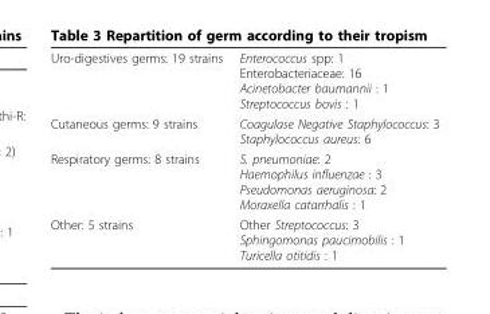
<table><tbody><tr><td>Uro-digestives germs: 19 strains</td><td>Enterococcus spp: 1 Enterobacteriaceae: 16 Acinetobacter baumannii : 1 Streptococcus bovis : 1</td></tr><tr><td>Cutaneous germs: 9 strains</td><td>Coagulase Negative Staphylococcus: 3 Staphylococcus aureus: 6</td></tr><tr><td>Respiratory germs: 8 strains</td><td>S. pneumoniae: 2 Haemophilus influenzae : 3 Pseudomonas aeruginosa: 2 Moraxella catarrhalis : 1</td></tr><tr><td>Other: 5 strains</td><td>Other Streptococcus: 3 Sphingomonas paucimobilis : 1 Turicella otitidis : 1</td></tr></tbody></table>